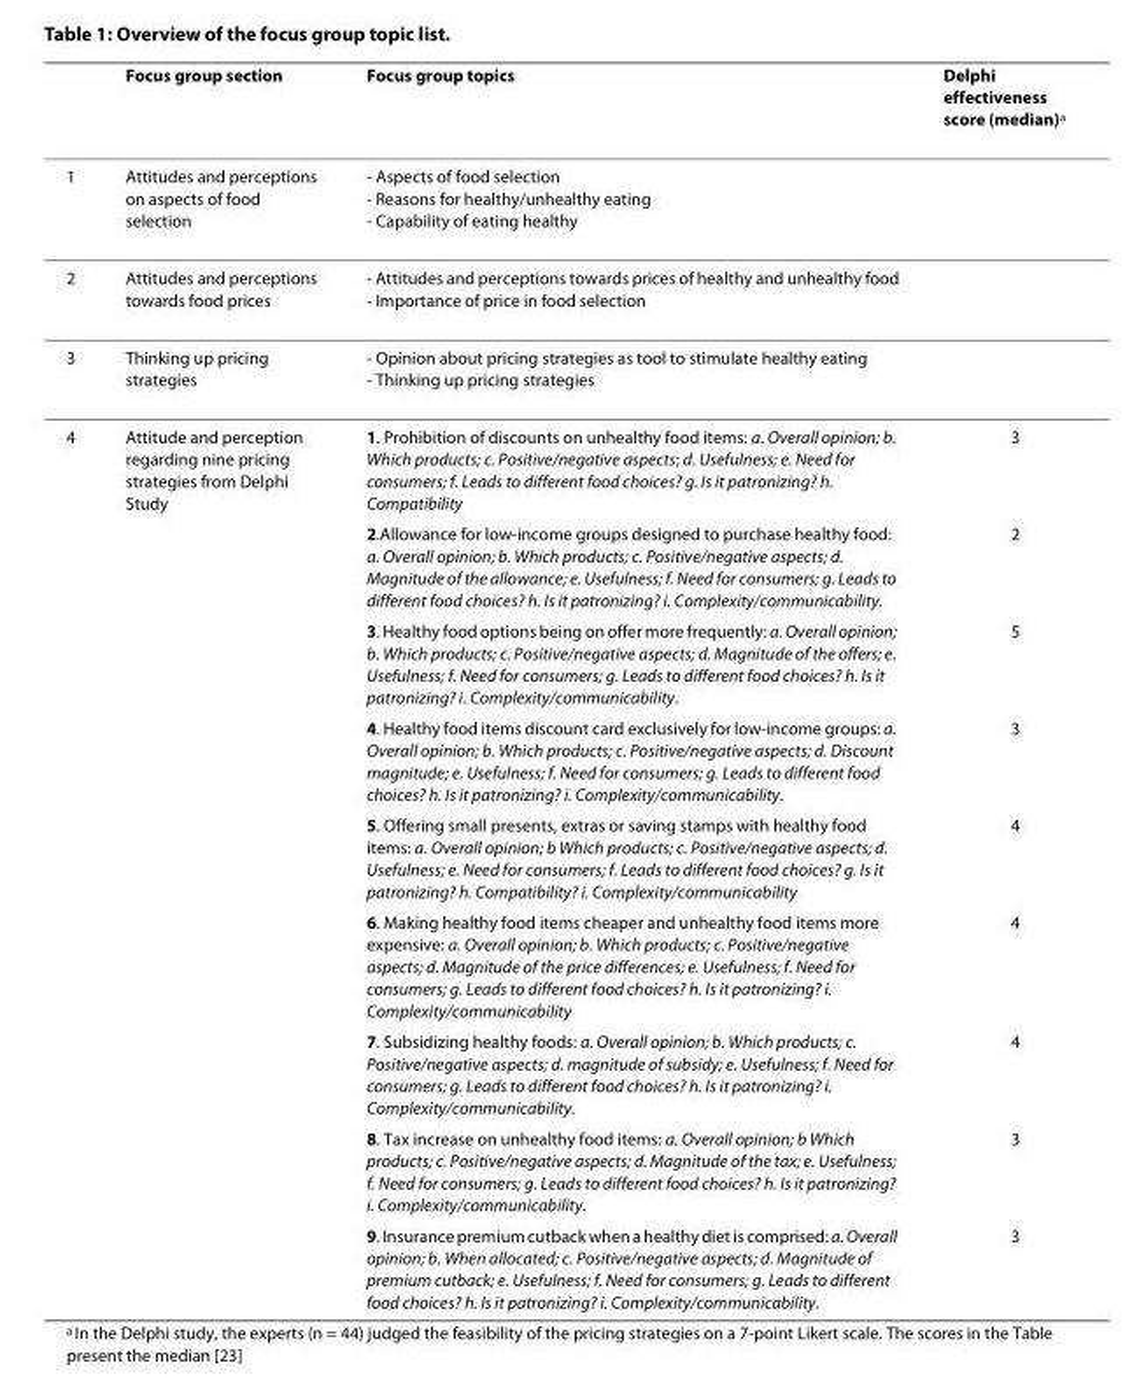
<table><thead><tr><td></td><td>Focus group section</td><td>Focus group topics</td><td>Delphi effectiveness score (median)<sup>a</sup></td></tr></thead><tbody><tr><td>1</td><td>Attitudes and perceptions on aspects of food selection</td><td>- Aspects of food selection - Reasons for healthy/unhealthy eating - Capability of eating healthy</td><td></td></tr><tr><td>2</td><td>Attitudes and perceptions towards food prices</td><td>- Attitudes and perceptions towards prices of healthy and unhealthy food - Importance of price in food selection</td><td></td></tr><tr><td>3</td><td>Thinking up pricing strategies</td><td>- Opinion about pricing strategies as tool to stimulate healthy eating - Thinking up pricing strategies</td><td></td></tr><tr><td rowspan="9">4</td><td>Attitude and perception regarding nine pricing strategies from Delphi Study</td><td>1. Prohibition of discounts on unhealthy food items: a. Overall opinion; b. Which products; c. Positive/negative aspects; d. Usefulness; e. Need for consumers; f. Leads to different food choices? g. Is it patronizing? h. Compatibility</td><td>3</td></tr><tr><td></td><td>2.Allowance for low-income groups designed to purchase healthy food: a. Overall opinion; b. Which products; c. Positive/negative aspects; d. Magnitude of the allowance; e. Usefulness; f. Need for consumers; g. Leads to different food choices? h. Is it patronizing? i. Complexity/communicability.</td><td>2</td></tr><tr><td></td><td>3. Healthy food options being on offer more frequently: a. Overall opinion; b. Which products; c. Positive/negative aspects; d. Magnitude of the offers; e. Usefulness; f. Need for consumers; g. Leads to different food choices? h. Is it patronizing? i. Complexity/communicability.</td><td>5</td></tr><tr><td></td><td>4. Healthy food items discount card exclusively for low-income groups: a. Overall opinion; b. Which products; c. Positive/negative aspects; d. Discount magnitude; e. Usefulness; f. Need for consumers; g. Leads to different food choices? h. Is it patronizing? i. Complexity/communicability.</td><td>3</td></tr><tr><td></td><td>5. Offering small presents, extras or saving stamps with healthy food items: a. Overall opinion; b Which products; c. Positive/negative aspects; d. Usefulness; e. Need for consumers; f. Leads to different food choices? g. Is it patronizing? h. Compatibility? i. Complexity/communicability</td><td>4</td></tr><tr><td></td><td>6. Making healthy food items cheaper and unhealthy food items more expensive: a. Overall opinion; b. Which products; c. Positive/negative aspects; d. Magnitude of the price differences; e. Usefulness; f. Need for consumers; g. Leads to different food choices? h. Is it patronizing? i. Complexity/communicability</td><td>4</td></tr><tr><td></td><td>7. Subsidizing healthy foods: a. Overall opinion; b. Which products; c. Positive/negative aspects; d. magnitude of subsidy; e. Usefulness; f. Need for consumers; g. Leads to different food choices? h. Is it patronizing? i. Complexity/communicability.</td><td>4</td></tr><tr><td></td><td>8. Tax increase on unhealthy food items: a. Overall opinion; b Which products; c. Positive/negative aspects; d. Magnitude of the tax; e. Usefulness; f. Need for consumers; g. Leads to different food choices? h. Is it patronizing? i. Complexity/communicability.</td><td>3</td></tr><tr><td></td><td>9. Insurance premium cutback when a healthy diet is comprised: a. Overall opinion; b. When allocated; c. Positive/negative aspects; d. Magnitude of premium cutback; e. Usefulness; f. Need for consumers; g. Leads to different food choices? h. Is it patronizing? i. Complexity/communicability.</td><td>3</td></tr></tbody></table>